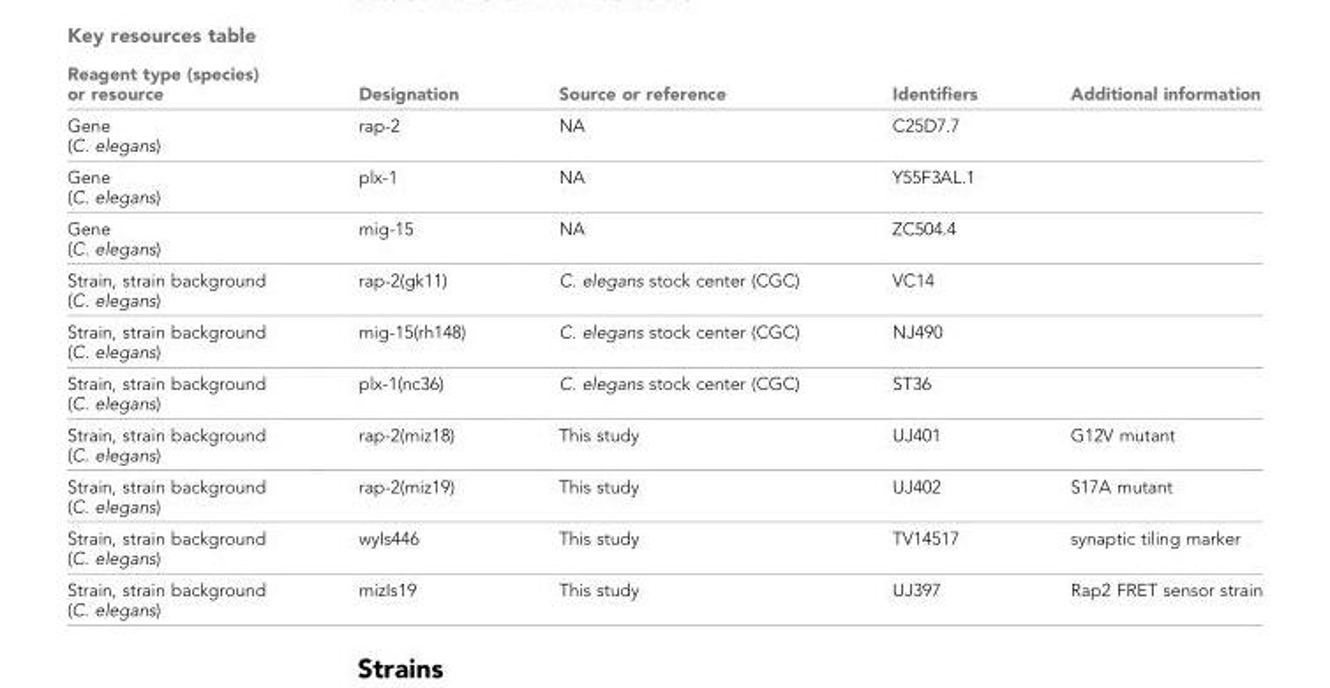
<table><thead><tr><td>Reagent type (species) or resource</td><td>Designation</td><td>Source or reference</td><td>Identifiers</td><td>Additional information</td></tr></thead><tbody><tr><td>Gene (C. elegans)</td><td>rap-2</td><td>NA</td><td>C25D7.7</td><td></td></tr><tr><td>Gene (C. elegans)</td><td>plx-1</td><td>NA</td><td>Y55F3AL.1</td><td></td></tr><tr><td>Gene (C. elegans)</td><td>mig-15</td><td>NA</td><td>ZC504.4</td><td></td></tr><tr><td>Strain, strain background (C. elegans)</td><td>rap-2(gk11)</td><td>C. elegans stock center (CGC)</td><td>VC14</td><td></td></tr><tr><td>Strain, strain background (C. elegans)</td><td>mig-15(rh148)</td><td>C. elegans stock center (CGC)</td><td>NJ490</td><td></td></tr><tr><td>Strain, strain background (C. elegans)</td><td>plx-1(nc36)</td><td>C. elegans stock center (CGC)</td><td>ST36</td><td></td></tr><tr><td>Strain, strain background (C. elegans)</td><td>rap-2(miz18)</td><td>This study</td><td>UJ401</td><td>G12V mutant</td></tr><tr><td>Strain, strain background (C. elegans)</td><td>rap-2(miz19)</td><td>This study</td><td>UJ402</td><td>S17A mutant</td></tr><tr><td>Strain, strain background (C. elegans)</td><td>wyIs446</td><td>This study</td><td>TV14517</td><td>synaptic tiling marker</td></tr><tr><td>Strain, strain background (C. elegans)</td><td>mizIs19</td><td>This study</td><td>UJ397</td><td>Rap2 FRET sensor strain</td></tr></tbody></table>